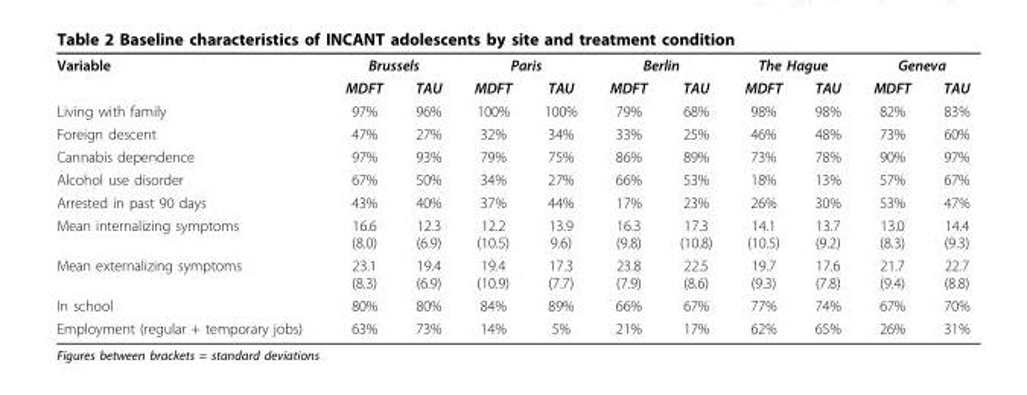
<table><tbody><tr><td rowspan="2">Variable</td><td colspan="2">Brussels</td><td colspan="2">Paris</td><td colspan="2">Berlin</td><td colspan="2">The Hague</td><td colspan="2">Geneva</td></tr><tr><td>MDFT</td><td>TAU</td><td>MDFT</td><td>TAU</td><td>MDFT</td><td>TAU</td><td>MDFT</td><td>TAU</td><td>MDFT</td><td>TAU</td></tr><tr><td>Living with family</td><td>97%</td><td>96%</td><td>100%</td><td>100%</td><td>79%</td><td>68%</td><td>98%</td><td>98%</td><td>82%</td><td>83%</td></tr><tr><td>Foreign descent</td><td>47%</td><td>27%</td><td>32%</td><td>34%</td><td>33%</td><td>25%</td><td>46%</td><td>48%</td><td>73%</td><td>60%</td></tr><tr><td>Cannabis dependence</td><td>97%</td><td>93%</td><td>79%</td><td>75%</td><td>86%</td><td>89%</td><td>73%</td><td>78%</td><td>90%</td><td>97%</td></tr><tr><td>Alcohol use disorder</td><td>67%</td><td>50%</td><td>34%</td><td>27%</td><td>66%</td><td>53%</td><td>18%</td><td>13%</td><td>57%</td><td>67%</td></tr><tr><td>Arrested in past 90 days</td><td>43%</td><td>40%</td><td>37%</td><td>44%</td><td>17%</td><td>23%</td><td>26%</td><td>30%</td><td>53%</td><td>47%</td></tr><tr><td>Mean internalizing symptoms</td><td>16.6 (8.0)</td><td>12.3 (6.9)</td><td>12.2 (10.5)</td><td>13.9 9.6)</td><td>16.3 (9.8)</td><td>17.3 (10.8)</td><td>14.1 (10.5)</td><td>13.7 (9.2)</td><td>13.0 (8.3)</td><td>14.4 (9.3)</td></tr><tr><td>Mean externalizing symptoms</td><td>23.1 (8.3)</td><td>19.4 (6.9)</td><td>19.4 (10.9)</td><td>17.3 (7.7)</td><td>23.8 (7.9)</td><td>22.5 (8.6)</td><td>19.7 (9.3)</td><td>17.6 (7.8)</td><td>21.7 (9.4)</td><td>22.7 (8.8)</td></tr><tr><td>In school</td><td>80%</td><td>80%</td><td>84%</td><td>89%</td><td>66%</td><td>67%</td><td>77%</td><td>74%</td><td>67%</td><td>70%</td></tr><tr><td>Employment (regular + temporary jobs)</td><td>63%</td><td>73%</td><td>14%</td><td>5%</td><td>21%</td><td>17%</td><td>62%</td><td>65%</td><td>26%</td><td>31%</td></tr></tbody></table>